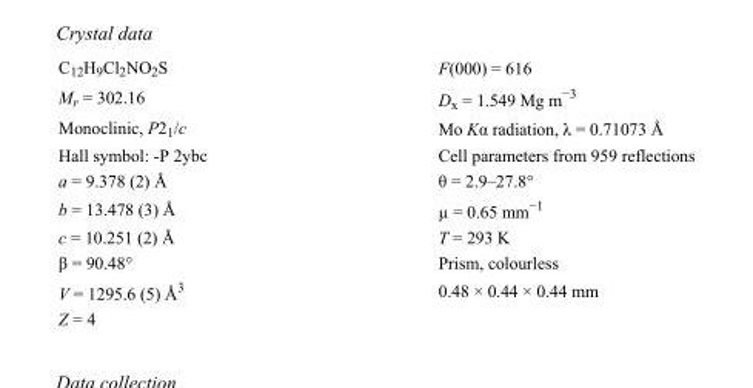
<table><tbody><tr><td>C<sub>12</sub>H<sub>9</sub>Cl<sub>2</sub>NO<sub>2</sub>S</td><td>F(000) = 616</td></tr><tr><td>M<sub>r</sub> = 302.16</td><td>D<sub>x</sub> = 1.549 Mg m<sup>−3</sup></td></tr><tr><td>Monoclinic, P2<sub>1</sub>/c</td><td>Mo Kα radiation, λ = 0.71073 Å</td></tr><tr><td>Hall symbol: -P 2ybc</td><td>Cell parameters from 959 reflections</td></tr><tr><td>a = 9.378 (2) Å</td><td>θ = 2.9–27.8°</td></tr><tr><td>b = 13.478 (3) Å</td><td>µ = 0.65 mm<sup>−1</sup></td></tr><tr><td>c = 10.251 (2) Å</td><td>T = 293 K</td></tr><tr><td>β = 90.48°</td><td>Prism, colourless</td></tr><tr><td>V = 1295.6 (5) Å<sup>3</sup></td><td>0.48 × 0.44 × 0.44 mm</td></tr><tr><td>Z = 4</td><td></td></tr></tbody></table>